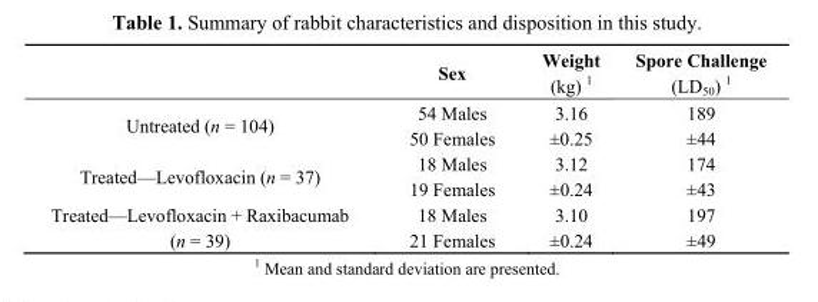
<table><thead><tr><td rowspan="2"></td><td rowspan="2">Sex</td><td rowspan="2">Weight (kg) <sup>1</sup></td><td rowspan="2">Spore Challenge (LD<sub>50</sub>) <sup>1</sup></td></tr><tr></tr></thead><tbody><tr><td rowspan="2">Untreated (n = 104)</td><td>54 Males</td><td>3.16</td><td>189</td></tr><tr><td>50 Females</td><td>±0.25</td><td>±44</td></tr><tr><td rowspan="2">Treated—Levofloxacin (n = 37)</td><td>18 Males</td><td>3.12</td><td>174</td></tr><tr><td>19 Females</td><td>±0.24</td><td>±43</td></tr><tr><td rowspan="2">Treated—Levofloxacin + Raxibacumab (n = 39)</td><td>18 Males</td><td>3.10</td><td>197</td></tr><tr><td>21 Females</td><td>±0.24</td><td>±49</td></tr></tbody></table>